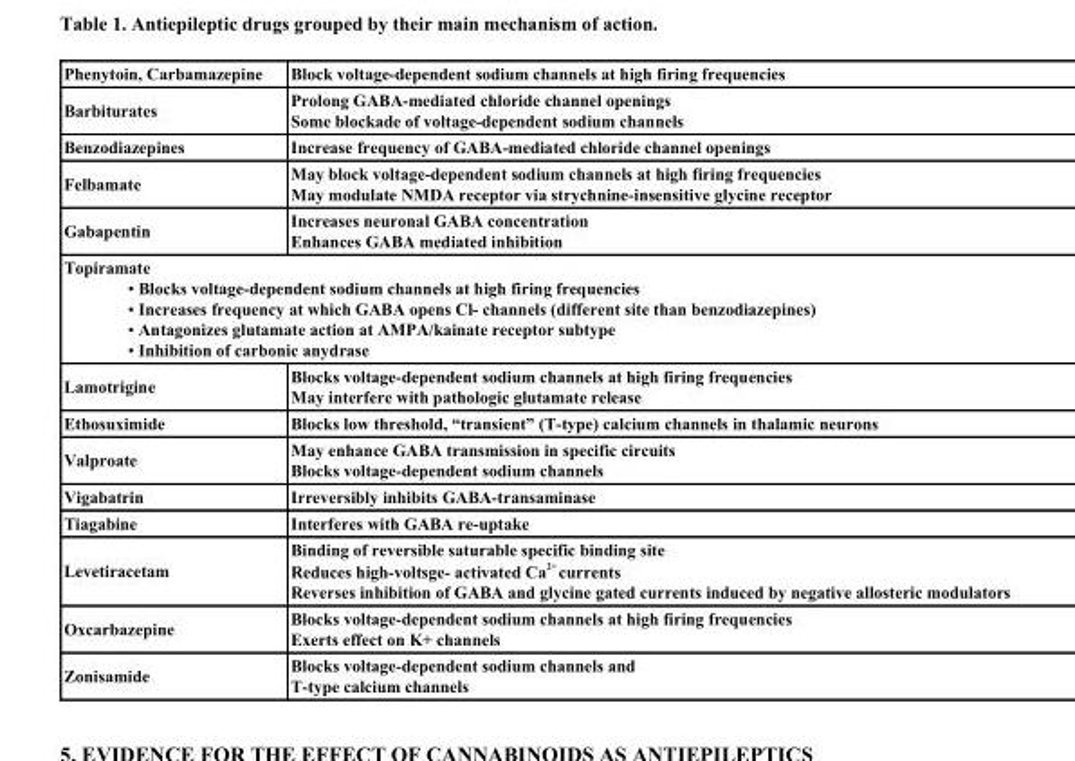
<table><tbody><tr><td>Phenytoin, Carbamazepine</td><td>Block voltage-dependent sodium channels at high firing frequencies</td></tr><tr><td>Barbiturates</td><td>Prolong GABA-mediated chloride channel openings Some blockade of voltage-dependent sodium channels</td></tr><tr><td>Benzodiazepines</td><td>Increase frequency of GABA-mediated chloride channel openings</td></tr><tr><td>Felbamate</td><td>May block voltage-dependent sodium channels at high firing frequencies May modulate NMDA receptor via strychnine-insensitive glycine receptor</td></tr><tr><td>Gabapentin</td><td>Increases neuronal GABA concentration Enhances GABA mediated inhibition</td></tr><tr><td colspan="2">Topiramate • Blocks voltage-dependent sodium channels at high firing frequencies • Increases frequency at which GABA opens Cl- channels (different site than benzodiazepines) • Antagonizes glutamate action at AMPA/kainate receptor subtype • Inhibition of carbonic anydrase</td></tr><tr><td>Lamotrigine</td><td>Blocks voltage-dependent sodium channels at high firing frequencies May interfere with pathologic glutamate release</td></tr><tr><td>Ethosuximide</td><td>Blocks low threshold, “transient” (T-type) calcium channels in thalamic neurons</td></tr><tr><td>Valproate</td><td>May enhance GABA transmission in specific circuits Blocks voltage-dependent sodium channels</td></tr><tr><td>Vigabatrin</td><td>Irreversibly inhibits GABA-transaminase</td></tr><tr><td>Tiagabine</td><td>Interferes with GABA re-uptake</td></tr><tr><td>Levetiracetam</td><td>Binding of reversible saturable specific binding site Reduces high-voltsge- activated Ca <sup>2+</sup> currents Reverses inhibition of GABA and glycine gated currents induced by negative allosteric modulators</td></tr><tr><td>Oxcarbazepine</td><td>Blocks voltage-dependent sodium channels at high firing frequencies Exerts effect on K+ channels</td></tr><tr><td>Zonisamide</td><td>Blocks voltage-dependent sodium channels and T-type calcium channels</td></tr></tbody></table>